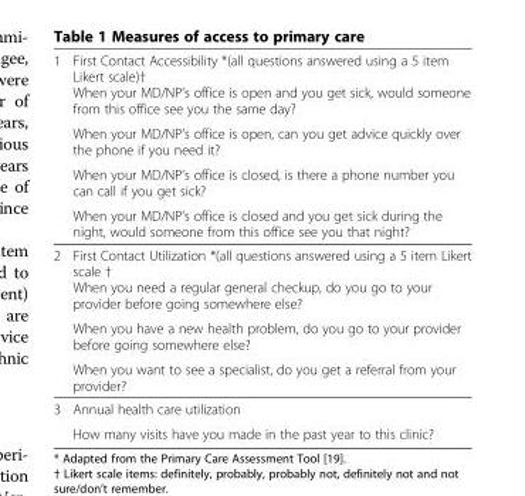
<table><tbody><tr><td rowspan="5">1</td><td>First Contact Accessibility *(all questions answered using a 5 item Likert scale)†</td></tr><tr><td>When your MD/NP’s office is open and you get sick, would someone from this office see you the same day?</td></tr><tr><td>When your MD/NP’s office is open, can you get advice quickly over the phone if you need it?</td></tr><tr><td>When your MD/NP’s office is closed, is there a phone number you can call if you get sick?</td></tr><tr><td>When your MD/NP’s office is closed and you get sick during the night, would someone from this office see you that night?</td></tr><tr><td rowspan="4">2</td><td>First Contact Utilization *(all questions answered using a 5 item Likert scale †</td></tr><tr><td>When you need a regular general checkup, do you go to your provider before going somewhere else?</td></tr><tr><td>When you have a new health problem, do you go to your provider before going somewhere else?</td></tr><tr><td>When you want to see a specialist, do you get a referral from your provider?</td></tr><tr><td rowspan="2">3</td><td>Annual health care utilization</td></tr><tr><td>How many visits have you made in the past year to this clinic?</td></tr></tbody></table>